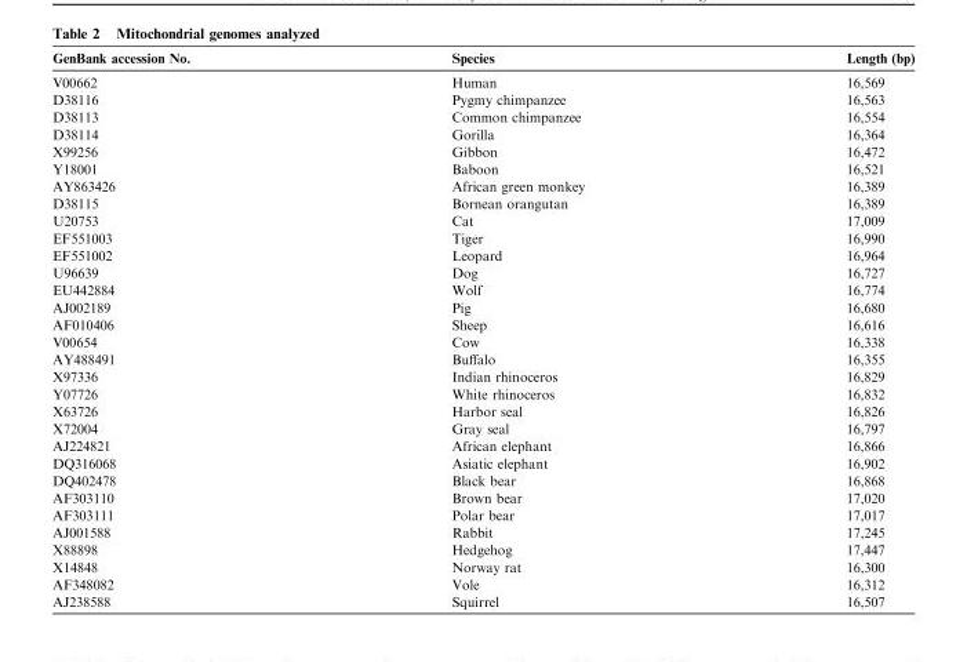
<table><thead><tr><td>GenBank accession No.</td><td>Species</td><td>Length (bp)</td></tr></thead><tbody><tr><td>V00662</td><td>Human</td><td>16,569</td></tr><tr><td>D38116</td><td>Pygmy chimpanzee</td><td>16,563</td></tr><tr><td>D38113</td><td>Common chimpanzee</td><td>16,554</td></tr><tr><td>D38114</td><td>Gorilla</td><td>16,364</td></tr><tr><td>X99256</td><td>Gibbon</td><td>16,472</td></tr><tr><td>Y18001</td><td>Baboon</td><td>16,521</td></tr><tr><td>AY863426</td><td>African green monkey</td><td>16,389</td></tr><tr><td>D38115</td><td>Bornean orangutan</td><td>16,389</td></tr><tr><td>U20753</td><td>Cat</td><td>17,009</td></tr><tr><td>EF551003</td><td>Tiger</td><td>16,990</td></tr><tr><td>EF551002</td><td>Leopard</td><td>16,964</td></tr><tr><td>U96639</td><td>Dog</td><td>16,727</td></tr><tr><td>EU442884</td><td>Wolf</td><td>16,774</td></tr><tr><td>AJ002189</td><td>Pig</td><td>16,680</td></tr><tr><td>AF010406</td><td>Sheep</td><td>16,616</td></tr><tr><td>V00654</td><td>Cow</td><td>16,338</td></tr><tr><td>AY488491</td><td>Buffalo</td><td>16,355</td></tr><tr><td>X97336</td><td>Indian rhinoceros</td><td>16,829</td></tr><tr><td>Y07726</td><td>White rhinoceros</td><td>16,832</td></tr><tr><td>X63726</td><td>Harbor seal</td><td>16,826</td></tr><tr><td>X72004</td><td>Gray seal</td><td>16,797</td></tr><tr><td>AJ224821</td><td>African elephant</td><td>16,866</td></tr><tr><td>DQ316068</td><td>Asiatic elephant</td><td>16,902</td></tr><tr><td>DQ402478</td><td>Black bear</td><td>16,868</td></tr><tr><td>AF303110</td><td>Brown bear</td><td>17,020</td></tr><tr><td>AF303111</td><td>Polar bear</td><td>17,017</td></tr><tr><td>AJ001588</td><td>Rabbit</td><td>17,245</td></tr><tr><td>X88898</td><td>Hedgehog</td><td>17,447</td></tr><tr><td>X14848</td><td>Norway rat</td><td>16,300</td></tr><tr><td>AF348082</td><td>Vole</td><td>16,312</td></tr><tr><td>AJ238588</td><td>Squirrel</td><td>16,507</td></tr></tbody></table>